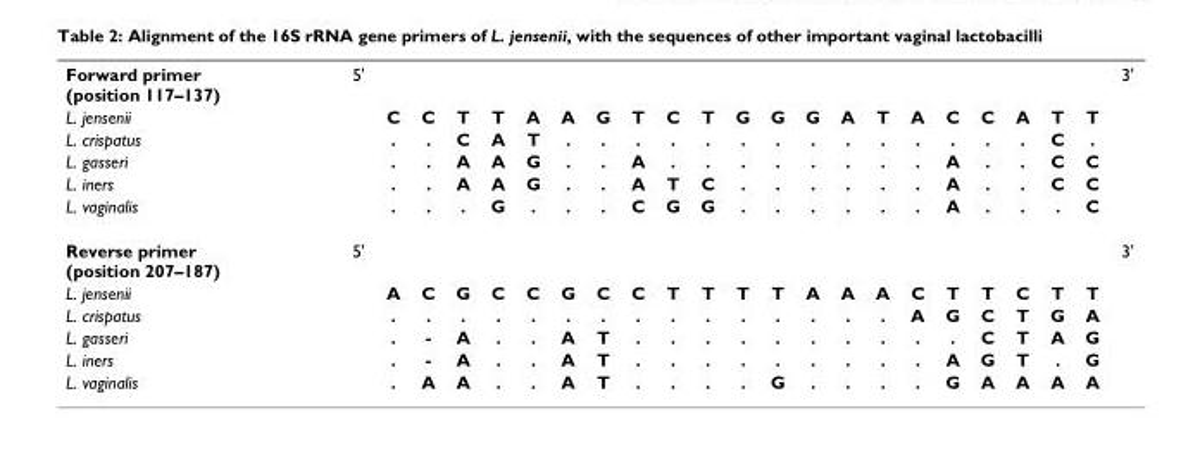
<table><tbody><tr><td>Forward primer (position 117–137)</td><td>5&#x27;</td><td></td><td></td><td></td><td></td><td></td><td></td><td></td><td></td><td></td><td></td><td></td><td></td><td></td><td></td><td></td><td></td><td></td><td></td><td></td><td></td><td></td><td>3&#x27;</td></tr><tr><td>L. jensenii</td><td></td><td>C</td><td>C</td><td>T</td><td>T</td><td>A</td><td>A</td><td>G</td><td>T</td><td>C</td><td>T</td><td>G</td><td>G</td><td>G</td><td>A</td><td>T</td><td>A</td><td>C</td><td>C</td><td>A</td><td>T</td><td>T</td><td></td></tr><tr><td>L. crispatus</td><td></td><td>.</td><td>.</td><td>C</td><td>A</td><td>T</td><td>.</td><td>.</td><td>.</td><td>.</td><td>.</td><td>.</td><td>.</td><td>.</td><td>.</td><td>.</td><td>.</td><td>.</td><td>.</td><td>.</td><td>C</td><td>.</td><td></td></tr><tr><td>L. gasseri</td><td></td><td>.</td><td>.</td><td>A</td><td>A</td><td>G</td><td>.</td><td>.</td><td>A</td><td>.</td><td>.</td><td>.</td><td>.</td><td>.</td><td>.</td><td>.</td><td>.</td><td>A</td><td>.</td><td>.</td><td>C</td><td>C</td><td></td></tr><tr><td>L. iners</td><td></td><td>.</td><td>.</td><td>A</td><td>A</td><td>G</td><td>.</td><td>.</td><td>A</td><td>T</td><td>C</td><td>.</td><td>.</td><td>.</td><td>.</td><td>.</td><td>.</td><td>A</td><td>.</td><td>.</td><td>C</td><td>C</td><td></td></tr><tr><td>L. vaginalis</td><td></td><td>.</td><td>.</td><td>.</td><td>G</td><td>.</td><td>.</td><td>.</td><td>C</td><td>G</td><td>G</td><td>.</td><td>.</td><td>.</td><td>.</td><td>.</td><td>.</td><td>A</td><td>.</td><td>.</td><td>.</td><td>C</td><td></td></tr><tr><td>Reverse primer (position 207–187)</td><td>5&#x27;</td><td></td><td></td><td></td><td></td><td></td><td></td><td></td><td></td><td></td><td></td><td></td><td></td><td></td><td></td><td></td><td></td><td></td><td></td><td></td><td></td><td></td><td>3&#x27;</td></tr><tr><td>L. jensenii</td><td></td><td>A</td><td>C</td><td>G</td><td>C</td><td>C</td><td>G</td><td>C</td><td>C</td><td>T</td><td>T</td><td>T</td><td>T</td><td>A</td><td>A</td><td>A</td><td>C</td><td>T</td><td>T</td><td>C</td><td>T</td><td>T</td><td></td></tr><tr><td>L. crispatus</td><td></td><td>.</td><td>.</td><td>.</td><td>.</td><td>.</td><td>.</td><td>.</td><td>.</td><td>.</td><td>.</td><td>.</td><td>.</td><td>.</td><td>.</td><td>.</td><td>A</td><td>G</td><td>C</td><td>T</td><td>G</td><td>A</td><td></td></tr><tr><td>L. gasseri</td><td></td><td>.</td><td>-</td><td>A</td><td>.</td><td>.</td><td>A</td><td>T</td><td>.</td><td>.</td><td>.</td><td>.</td><td>.</td><td>.</td><td>.</td><td>.</td><td>.</td><td>.</td><td>C</td><td>T</td><td>A</td><td>G</td><td></td></tr><tr><td>L. iners</td><td></td><td>.</td><td>-</td><td>A</td><td>.</td><td>.</td><td>A</td><td>T</td><td>.</td><td>.</td><td>.</td><td>.</td><td>.</td><td>.</td><td>.</td><td>.</td><td>.</td><td>A</td><td>G</td><td>T</td><td>.</td><td>G</td><td></td></tr><tr><td>L. vaginalis</td><td></td><td>.</td><td>A</td><td>A</td><td>.</td><td>.</td><td>A</td><td>T</td><td>.</td><td>.</td><td>.</td><td>.</td><td>G</td><td>.</td><td>.</td><td>.</td><td>.</td><td>G</td><td>A</td><td>A</td><td>A</td><td>A</td><td></td></tr></tbody></table>